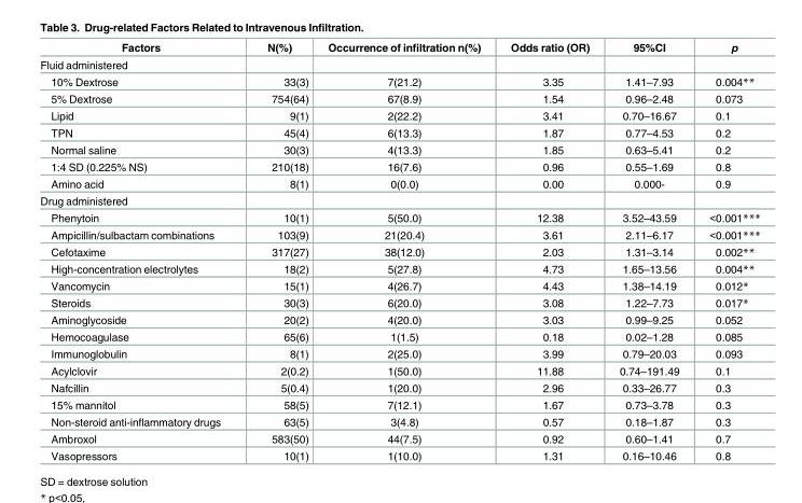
<table><thead><tr><td>Factors</td><td>N(%)</td><td>Occurrence of infiltration n(%)</td><td>Odds ratio (OR)</td><td>95%CI</td><td>p</td></tr></thead><tbody><tr><td colspan="6">Fluid administered</td></tr><tr><td>10% Dextrose</td><td>33(3)</td><td>7(21.2)</td><td>3.35</td><td>1.41–7.93</td><td>0.004**</td></tr><tr><td>5% Dextrose</td><td>754(64)</td><td>67(8.9)</td><td>1.54</td><td>0.96–2.48</td><td>0.073</td></tr><tr><td>Lipid</td><td>9(1)</td><td>2(22.2)</td><td>3.41</td><td>0.70–16.67</td><td>0.1</td></tr><tr><td>TPN</td><td>45(4)</td><td>6(13.3)</td><td>1.87</td><td>0.77–4.53</td><td>0.2</td></tr><tr><td>Normal saline</td><td>30(3)</td><td>4(13.3)</td><td>1.85</td><td>0.63–5.41</td><td>0.2</td></tr><tr><td>1:4 SD (0.225% NS)</td><td>210(18)</td><td>16(7.6)</td><td>0.96</td><td>0.55–1.69</td><td>0.8</td></tr><tr><td>Amino acid</td><td>8(1)</td><td>0(0.0)</td><td>0.00</td><td>0.000-</td><td>0.9</td></tr><tr><td colspan="6">Drug administered</td></tr><tr><td>Phenytoin</td><td>10(1)</td><td>5(50.0)</td><td>12.38</td><td>3.52–43.59</td><td>&lt;0.001***</td></tr><tr><td>Ampicillin/sulbactam combinations</td><td>103(9)</td><td>21(20.4)</td><td>3.61</td><td>2.11–6.17</td><td>&lt;0.001***</td></tr><tr><td>Cefotaxime</td><td>317(27)</td><td>38(12.0)</td><td>2.03</td><td>1.31–3.14</td><td>0.002**</td></tr><tr><td>High-concentration electrolytes</td><td>18(2)</td><td>5(27.8)</td><td>4.73</td><td>1.65–13.56</td><td>0.004**</td></tr><tr><td>Vancomycin</td><td>15(1)</td><td>4(26.7)</td><td>4.43</td><td>1.38–14.19</td><td>0.012*</td></tr><tr><td>Steroids</td><td>30(3)</td><td>6(20.0)</td><td>3.08</td><td>1.22–7.73</td><td>0.017*</td></tr><tr><td>Aminoglycoside</td><td>20(2)</td><td>4(20.0)</td><td>3.03</td><td>0.99–9.25</td><td>0.052</td></tr><tr><td>Hemocoagulase</td><td>65(6)</td><td>1(1.5)</td><td>0.18</td><td>0.02–1.28</td><td>0.085</td></tr><tr><td>Immunoglobulin</td><td>8(1)</td><td>2(25.0)</td><td>3.99</td><td>0.79–20.03</td><td>0.093</td></tr><tr><td>Acylclovir</td><td>2(0.2)</td><td>1(50.0)</td><td>11.88</td><td>0.74–191.49</td><td>0.1</td></tr><tr><td>Nafcillin</td><td>5(0.4)</td><td>1(20.0)</td><td>2.96</td><td>0.33–26.77</td><td>0.3</td></tr><tr><td>15% mannitol</td><td>58(5)</td><td>7(12.1)</td><td>1.67</td><td>0.73–3.78</td><td>0.3</td></tr><tr><td>Non-steroid anti-inflammatory drugs</td><td>63(5)</td><td>3(4.8)</td><td>0.57</td><td>0.18–1.87</td><td>0.3</td></tr><tr><td>Ambroxol</td><td>583(50)</td><td>44(7.5)</td><td>0.92</td><td>0.60–1.41</td><td>0.7</td></tr><tr><td>Vasopressors</td><td>10(1)</td><td>1(10.0)</td><td>1.31</td><td>0.16–10.46</td><td>0.8</td></tr></tbody></table>